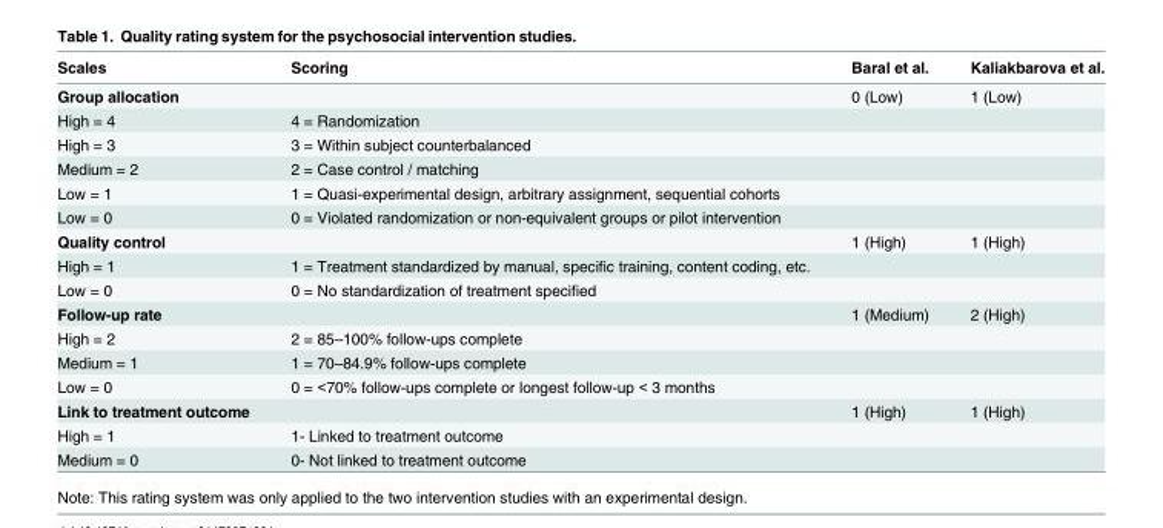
<table><thead><tr><td>Scales</td><td>Scoring</td><td>Baral et al.</td><td>Kaliakbarova et al.</td></tr></thead><tbody><tr><td>Group allocation</td><td></td><td>0 (Low)</td><td>1 (Low)</td></tr><tr><td>High = 4</td><td>4 = Randomization</td><td></td><td></td></tr><tr><td>High = 3</td><td>3 = Within subject counterbalanced</td><td></td><td></td></tr><tr><td>Medium = 2</td><td>2 = Case control / matching</td><td></td><td></td></tr><tr><td>Low = 1</td><td>1 = Quasi-experimental design, arbitrary assignment, sequential cohorts</td><td></td><td></td></tr><tr><td>Low = 0</td><td>0 = Violated randomization or non-equivalent groups or pilot intervention</td><td></td><td></td></tr><tr><td>Quality control</td><td></td><td>1 (High)</td><td>1 (High)</td></tr><tr><td>High = 1</td><td>1 = Treatment standardized by manual, specific training, content coding, etc.</td><td></td><td></td></tr><tr><td>Low = 0</td><td>0 = No standardization of treatment specified</td><td></td><td></td></tr><tr><td>Follow-up rate</td><td></td><td>1 (Medium)</td><td>2 (High)</td></tr><tr><td>High = 2</td><td>2 = 85–100% follow-ups complete</td><td></td><td></td></tr><tr><td>Medium = 1</td><td>1 = 70–84.9% follow-ups complete</td><td></td><td></td></tr><tr><td>Low = 0</td><td>0 = &lt;70% follow-ups complete or longest follow-up &lt; 3 months</td><td></td><td></td></tr><tr><td>Link to treatment outcome</td><td></td><td>1 (High)</td><td>1 (High)</td></tr><tr><td>High = 1</td><td>1- Linked to treatment outcome</td><td></td><td></td></tr><tr><td>Medium = 0</td><td>0- Not linked to treatment outcome</td><td></td><td></td></tr></tbody></table>